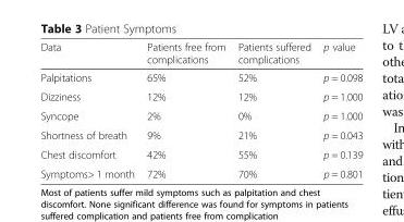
<table><thead><tr><td>Data</td><td>Patients free from complications</td><td>Patients suffered complications</td><td>p value</td></tr></thead><tbody><tr><td>Palpitations</td><td>65%</td><td>52%</td><td>p = 0.098</td></tr><tr><td>Dizziness</td><td>12%</td><td>12%</td><td>p = 1.000</td></tr><tr><td>Syncope</td><td>2%</td><td>0%</td><td>p = 1.000</td></tr><tr><td>Shortness of breath</td><td>9%</td><td>21%</td><td>p = 0.043</td></tr><tr><td>Chest discomfort</td><td>42%</td><td>55%</td><td>p = 0.139</td></tr><tr><td>Symptoms&gt; 1 month</td><td>72%</td><td>70%</td><td>p = 0.801</td></tr></tbody></table>